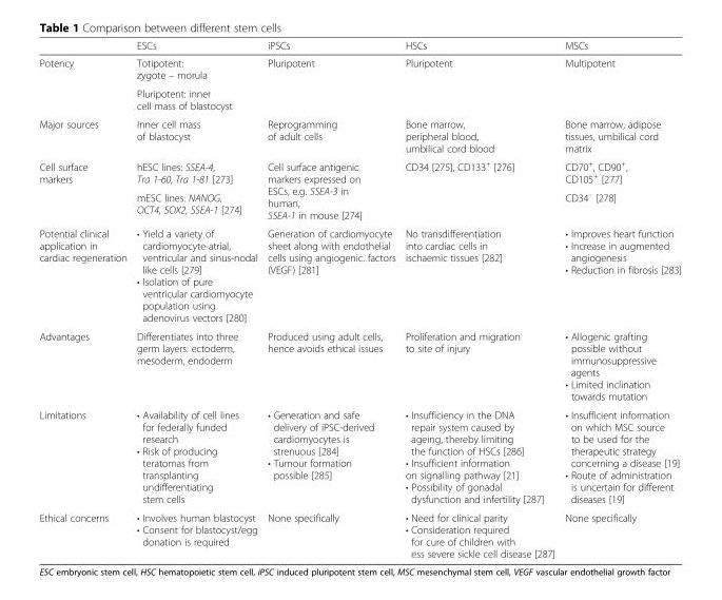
<table><thead><tr><td></td><td>ESCs</td><td>iPSCs</td><td>HSCs</td><td>MSCs</td></tr></thead><tbody><tr><td rowspan="2">Potency</td><td>Totipotent: zygote – morula</td><td rowspan="2">Pluripotent</td><td rowspan="2">Pluripotent</td><td rowspan="2">Multipotent</td></tr><tr><td>Pluripotent: inner cell mass of blastocyst</td></tr><tr><td>Major sources</td><td>Inner cell mass of blastocyst</td><td>Reprogramming of adult cells</td><td>Bone marrow, peripheral blood, umbilical cord blood</td><td>Bone marrow, adipose tissues, umbilical cord matrix</td></tr><tr><td rowspan="2">Cell surface markers</td><td>hESC lines: SSEA-4, Tra 1-60, Tra 1-81 [273]</td><td rowspan="2">Cell surface antigenic markers expressed on ESCs, e.g. SSEA-3 in human, SSEA-1 in mouse [274]</td><td rowspan="2">CD34 [275], CD133<sup>+</sup> [276]</td><td>CD70<sup>+</sup>, CD90<sup>+</sup>, CD105<sup>+</sup> [277]</td></tr><tr><td>mESC lines: NANOG, OCT4, SOX2, SSEA-1 [274]</td><td>CD34<sup>–</sup> [278]</td></tr><tr><td>Potential clinical application in cardiac regeneration</td><td>• Yield a variety of cardiomyocyte-atrial, ventricular and sinus-nodal like cells [279] • Isolation of pure ventricular cardiomyocyte population using adenovirus vectors [280]</td><td>Generation of cardiomyocyte sheet along with endothelial cells using angiogenic. factors (VEGF) [281]</td><td>No transdifferentiation into cardiac cells in ischaemic tissues [282]</td><td>• Improves heart function • Increase in augmented angiogenesis • Reduction in fibrosis [283]</td></tr><tr><td>Advantages</td><td>Differentiates into three germ layers: ectoderm, mesoderm, endoderm</td><td>Produced using adult cells, hence avoids ethical issues</td><td>Proliferation and migration to site of injury</td><td>• Allogenic grafting possible without immunosuppressive agents • Limited inclination towards mutation</td></tr><tr><td>Limitations</td><td>• Availability of cell lines for federally funded research • Risk of producing teratomas from transplanting undifferentiating stem cells</td><td>• Generation and safe delivery of iPSC-derived cardiomyocytes is strenuous [284] • Tumour formation possible [285]</td><td>• Insufficiency in the DNA repair system caused by ageing, thereby limiting the function of HSCs [286] • Insufficient information on signalling pathway [21] • Possibility of gonadal dysfunction and infertility [287]</td><td>• Insufficient information on which MSC source to be used for the therapeutic strategy concerning a disease [19] • Route of administration is uncertain for different diseases [19]</td></tr><tr><td>Ethical concerns</td><td>• Involves human blastocyst • Consent for blastocyst/egg donation is required</td><td>None specifically</td><td>• Need for clinical parity • Consideration required for cure of children with ess severe sickle cell disease [287]</td><td>None specifically</td></tr></tbody></table>